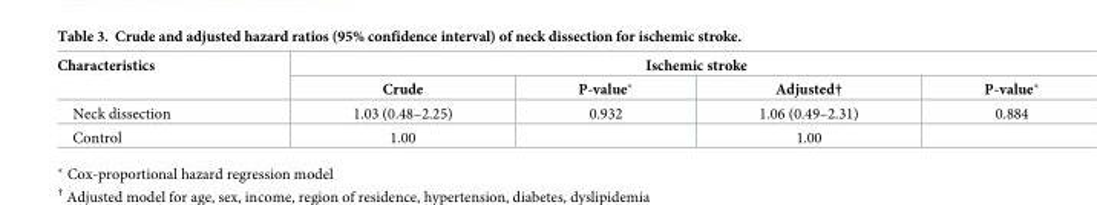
<table><thead><tr><td rowspan="2">Characteristics</td><td colspan="4">Ischemic stroke</td></tr><tr><td>Crude</td><td>P-value*</td><td>Adjusted†</td><td>P-value*</td></tr></thead><tbody><tr><td>Neck dissection</td><td>1.03 (0.48–2.25)</td><td>0.932</td><td>1.06 (0.49–2.31)</td><td>0.884</td></tr><tr><td>Control</td><td>1.00</td><td></td><td>1.00</td><td></td></tr></tbody></table>